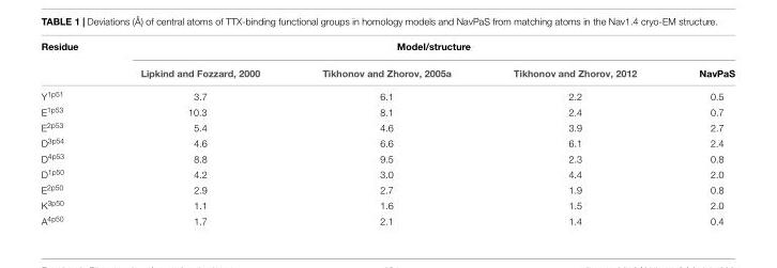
<table><thead><tr><td rowspan="2">Residue</td><td colspan="4">Model/structure</td></tr><tr><td>Lipkind and Fozzard, 2000</td><td>Tikhonov and Zhorov, 2005a</td><td>Tikhonov and Zhorov, 2012</td><td>NavPaS</td></tr></thead><tbody><tr><td>Y<sup>1p51</sup></td><td>3.7</td><td>6.1</td><td>2.2</td><td>0.5</td></tr><tr><td>E<sup>1p53</sup></td><td>10.3</td><td>8.1</td><td>2.4</td><td>0.7</td></tr><tr><td>E<sup>2p53</sup></td><td>5.4</td><td>4.6</td><td>3.9</td><td>2.7</td></tr><tr><td>D<sup>3p54</sup></td><td>4.6</td><td>6.6</td><td>6.1</td><td>2.4</td></tr><tr><td>D<sup>4p53</sup></td><td>8.8</td><td>9.5</td><td>2.3</td><td>0.8</td></tr><tr><td>D<sup>1p50</sup></td><td>4.2</td><td>3.0</td><td>4.4</td><td>2.0</td></tr><tr><td>E<sup>2p50</sup></td><td>2.9</td><td>2.7</td><td>1.9</td><td>0.8</td></tr><tr><td>K<sup>3p50</sup></td><td>1.1</td><td>1.6</td><td>1.5</td><td>2.0</td></tr><tr><td>A<sup>4p50</sup></td><td>1.7</td><td>2.1</td><td>1.4</td><td>0.4</td></tr></tbody></table>